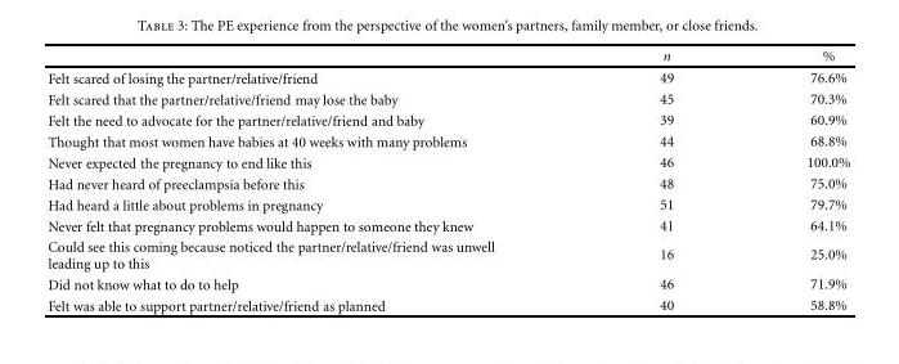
<table><thead><tr><td></td><td>n</td><td>%</td></tr></thead><tbody><tr><td>Felt scared of losing the partner/relative/friend</td><td>49</td><td>76.6%</td></tr><tr><td>Felt scared that the partner/relative/friend may lose the baby</td><td>45</td><td>70.3%</td></tr><tr><td>Felt the need to advocate for the partner/relative/friend and baby</td><td>39</td><td>60.9%</td></tr><tr><td>Thought that most women have babies at 40 weeks with many problems</td><td>44</td><td>68.8%</td></tr><tr><td>Never expected the pregnancy to end like this</td><td>46</td><td>100.0%</td></tr><tr><td>Had never heard of preeclampsia before this</td><td>48</td><td>75.0%</td></tr><tr><td>Had heard a little about problems in pregnancy</td><td>51</td><td>79.7%</td></tr><tr><td>Never felt that pregnancy problems would happen to someone they knew</td><td>41</td><td>64.1%</td></tr><tr><td>Could see this coming because noticed the partner/relative/friend was unwell leading up to this</td><td>16</td><td>25.0%</td></tr><tr><td>Did not know what to do to help</td><td>46</td><td>71.9%</td></tr><tr><td>Felt was able to support partner/relative/friend as planned</td><td>40</td><td>58.8%</td></tr></tbody></table>